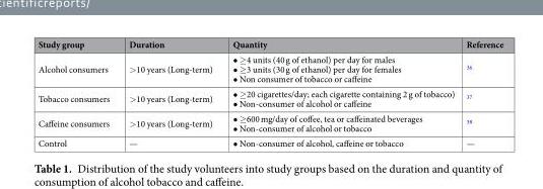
<table><thead><tr><td>Study group</td><td>Duration</td><td>Quantity</td><td>Reference</td></tr></thead><tbody><tr><td>Alcohol consumers</td><td>&gt;10 years (Long-term)</td><td>• ≥4 units (40 g of ethanol) per day for males • ≥3 units (30 g of ethanol) per day for females • Non consumer of tobacco or caffeine</td><td><sup>36</sup></td></tr><tr><td>Tobacco consumers</td><td>&gt;10 years (Long-term)</td><td>• ≥20 cigarettes/day; each cigarette containing 2 g of tobacco) • Non-consumer of alcohol or caffeine</td><td><sup>37</sup></td></tr><tr><td>Caffeine consumers</td><td>&gt;10 years (Long-term)</td><td>• ≥600 mg/day of coffee, tea or caffeinated beverages • Non-consumer of alcohol or tobacco</td><td><sup>38</sup></td></tr><tr><td>Control</td><td>—</td><td>• Non-consumer of alcohol, caffeine or tobacco</td><td>—</td></tr></tbody></table>